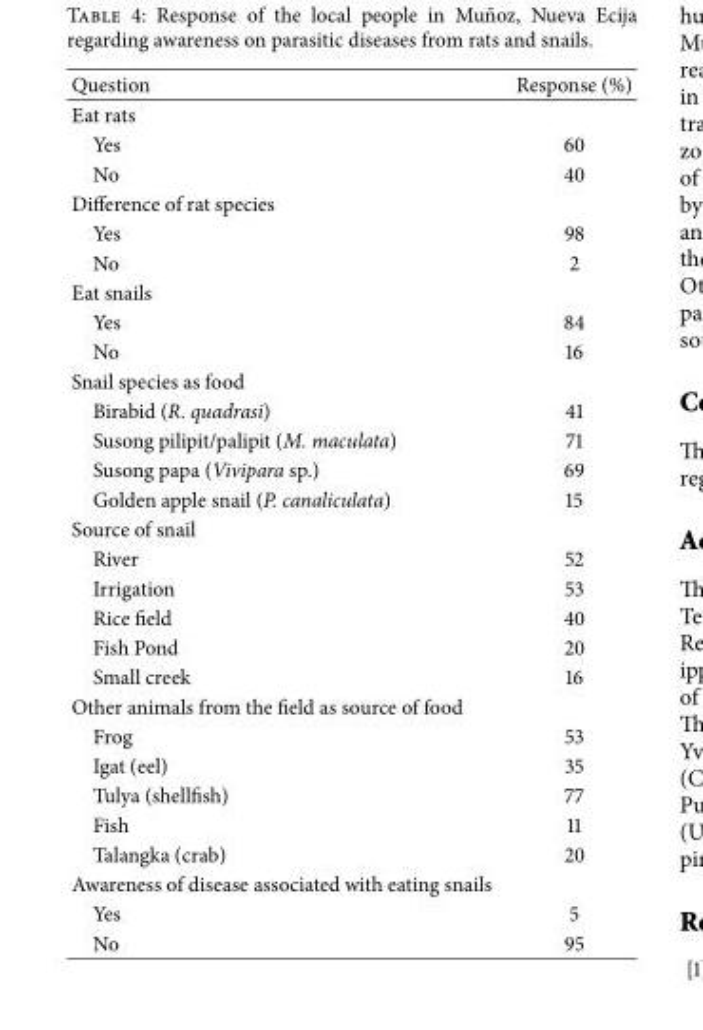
<table><thead><tr><td>Question</td><td>Response (%)</td></tr></thead><tbody><tr><td colspan="2">Eat rats</td></tr><tr><td>Yes</td><td>60</td></tr><tr><td>No</td><td>40</td></tr><tr><td colspan="2">Difference of rat species</td></tr><tr><td>Yes</td><td>98</td></tr><tr><td>No</td><td>2</td></tr><tr><td colspan="2">Eat snails</td></tr><tr><td>Yes</td><td>84</td></tr><tr><td>No</td><td>16</td></tr><tr><td colspan="2">Snail species as food</td></tr><tr><td>Birabid (R. quadrasi)</td><td>41</td></tr><tr><td>Susong pilipit/palipit (M. maculata)</td><td>71</td></tr><tr><td>Susong papa (Vivipara sp.)</td><td>69</td></tr><tr><td>Golden apple snail (P. canaliculata)</td><td>15</td></tr><tr><td colspan="2">Source of snail</td></tr><tr><td>River</td><td>52</td></tr><tr><td>Irrigation</td><td>53</td></tr><tr><td>Rice field</td><td>40</td></tr><tr><td>Fish Pond</td><td>20</td></tr><tr><td>Small creek</td><td>16</td></tr><tr><td colspan="2">Other animals from the field as source of food</td></tr><tr><td>Frog</td><td>53</td></tr><tr><td>Igat (eel)</td><td>35</td></tr><tr><td>Tulya (shellfish)</td><td>77</td></tr><tr><td>Fish</td><td>11</td></tr><tr><td>Talangka (crab)</td><td>20</td></tr><tr><td colspan="2">Awareness of disease associated with eating snails</td></tr><tr><td>Yes</td><td>5</td></tr><tr><td>No</td><td>95</td></tr></tbody></table>